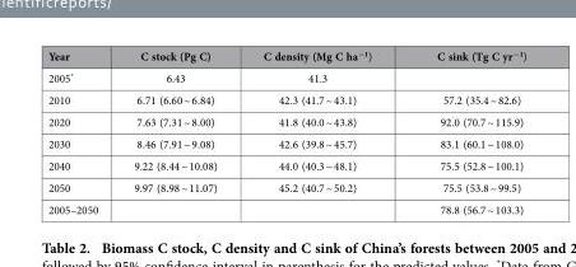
<table><thead><tr><td>Year</td><td>C stock (Pg C)</td><td>C density (Mg C ha<sup>−1</sup>)</td><td>C sink (Tg C yr<sup>−1</sup>)</td></tr></thead><tbody><tr><td>2005*</td><td>6.43</td><td>41.3</td><td></td></tr><tr><td>2010</td><td>6.71 (6.60 ~ 6.84)</td><td>42.3 (41.7 ~ 43.1)</td><td>57.2 (35.4 ~ 82.6)</td></tr><tr><td>2020</td><td>7.63 (7.31 ~ 8.00)</td><td>41.8 (40.0 ~ 43.8)</td><td>92.0 (70.7 ~ 115.9)</td></tr><tr><td>2030</td><td>8.46 (7.91 ~ 9.08)</td><td>42.6 (39.8 ~ 45.7)</td><td>83.1 (60.1 ~ 108.0)</td></tr><tr><td>2040</td><td>9.22 (8.44 ~ 10.08)</td><td>44.0 (40.3 ~ 48.1)</td><td>75.5 (52.8 ~ 100.1)</td></tr><tr><td>2050</td><td>9.97 (8.98 ~ 11.07)</td><td>45.2 (40.7 ~ 50.2)</td><td>75.5 (53.8 ~ 99.5)</td></tr><tr><td>2005–2050</td><td></td><td></td><td>78.8 (56.7 ~ 103.3)</td></tr></tbody></table>